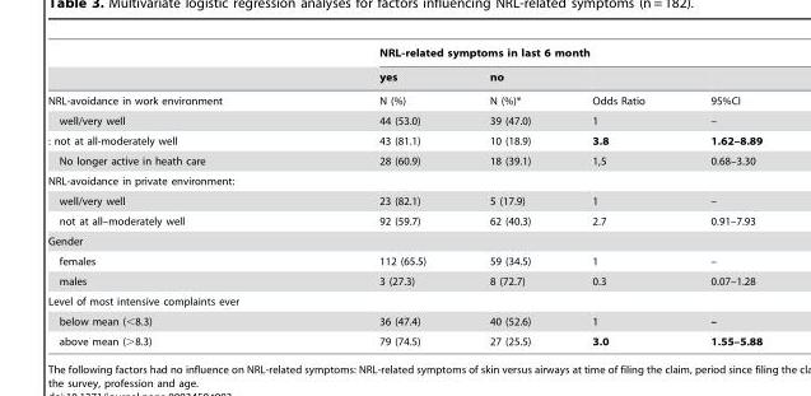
<table><thead><tr><td rowspan="2"></td><td colspan="4">NRL-related symptoms in last 6 month</td></tr><tr><td>yes</td><td>no</td><td></td><td></td></tr></thead><tbody><tr><td>NRL-avoidance in work environment</td><td>N (%)</td><td>N (%)*</td><td>Odds Ratio</td><td>95%CI</td></tr><tr><td>well/very well</td><td>44 (53.0)</td><td>39 (47.0)</td><td>1</td><td>–</td></tr><tr><td>: not at all-moderately well</td><td>43 (81.1)</td><td>10 (18.9)</td><td>3.8</td><td>1.62–8.89</td></tr><tr><td>No longer active in heath care</td><td>28 (60.9)</td><td>18 (39.1)</td><td>1,5</td><td>0.68–3.30</td></tr><tr><td colspan="5">NRL-avoidance in private environment:</td></tr><tr><td>well/very well</td><td>23 (82.1)</td><td>5 (17.9)</td><td>1</td><td>–</td></tr><tr><td>not at all–moderately well</td><td>92 (59.7)</td><td>62 (40.3)</td><td>2.7</td><td>0.91–7.93</td></tr><tr><td colspan="5">Gender</td></tr><tr><td>females</td><td>112 (65.5)</td><td>59 (34.5)</td><td>1</td><td>–</td></tr><tr><td>males</td><td>3 (27.3)</td><td>8 (72.7)</td><td>0.3</td><td>0.07–1.28</td></tr><tr><td colspan="5">Level of most intensive complaints ever</td></tr><tr><td>below mean (&lt;8.3)</td><td>36 (47.4)</td><td>40 (52.6)</td><td>1</td><td>–</td></tr><tr><td>above mean (&gt;8.3)</td><td>79 (74.5)</td><td>27 (25.5)</td><td>3.0</td><td>1.55–5.88</td></tr></tbody></table>